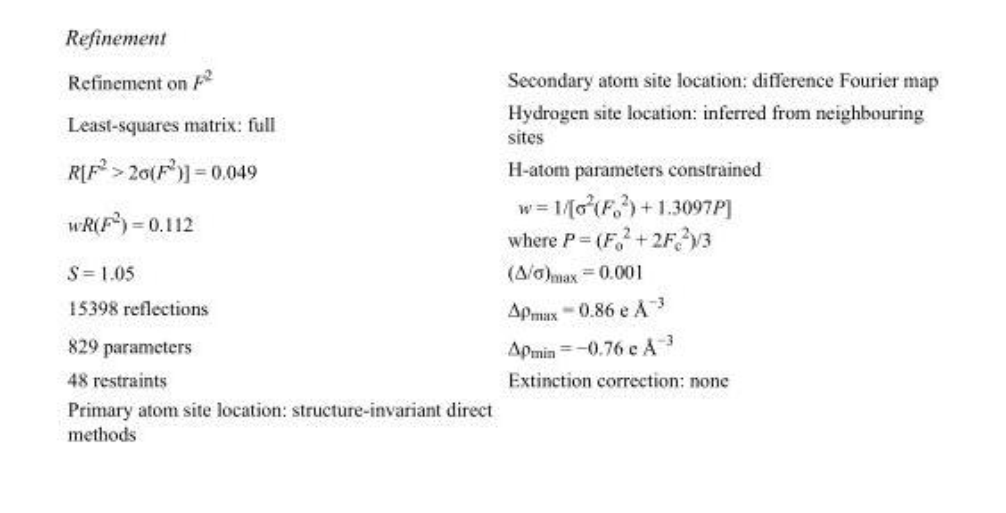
<table><tbody><tr><td>Refinement on F<sup>2</sup></td><td>Secondary atom site location: difference Fourier map</td></tr><tr><td>Least-squares matrix: full</td><td>Hydrogen site location: inferred from neighbouring sites</td></tr><tr><td>R[F<sup>2</sup> &gt; 2σ(F<sup>2</sup>)] = 0.049</td><td>H-atom parameters constrained</td></tr><tr><td>wR(F<sup>2</sup>) = 0.112</td><td>w = 1/[σ<sup>2</sup>(F<sub>o</sub> <sup>2</sup>) + 1.3097P] where P = (F<sub>o</sub> <sup>2</sup> + 2F<sub>c</sub> <sup>2</sup>)/3</td></tr><tr><td>S = 1.05</td><td>(Δ/σ)<sub>max</sub> = 0.001</td></tr><tr><td>15398 reflections</td><td>Δρ<sub>max</sub> = 0.86 e Å<sup>−3</sup></td></tr><tr><td>829 parameters</td><td>Δρ<sub>min</sub> = −0.76 e Å<sup>−3</sup></td></tr><tr><td>48 restraints</td><td>Extinction correction: none</td></tr><tr><td>Primary atom site location: structure-invariant direct methods</td><td></td></tr></tbody></table>